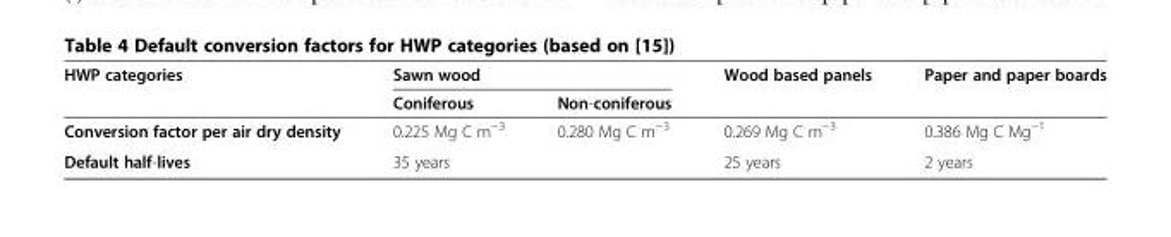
<table><thead><tr><td rowspan="2">HWP categories</td><td colspan="2">Sawn wood</td><td rowspan="2">Wood based panels</td><td rowspan="2">Paper and paper boards</td></tr><tr><td>Coniferous</td><td>Non-coniferous</td></tr></thead><tbody><tr><td>Conversion factor per air dry density</td><td>0.225 Mg C m<sup>−3</sup></td><td>0.280 Mg C m<sup>−3</sup></td><td>0.269 Mg C m<sup>−3</sup></td><td>0.386 Mg C Mg<sup>−1</sup></td></tr><tr><td>Default half-lives</td><td colspan="2">35 years</td><td>25 years</td><td>2 years</td></tr></tbody></table>